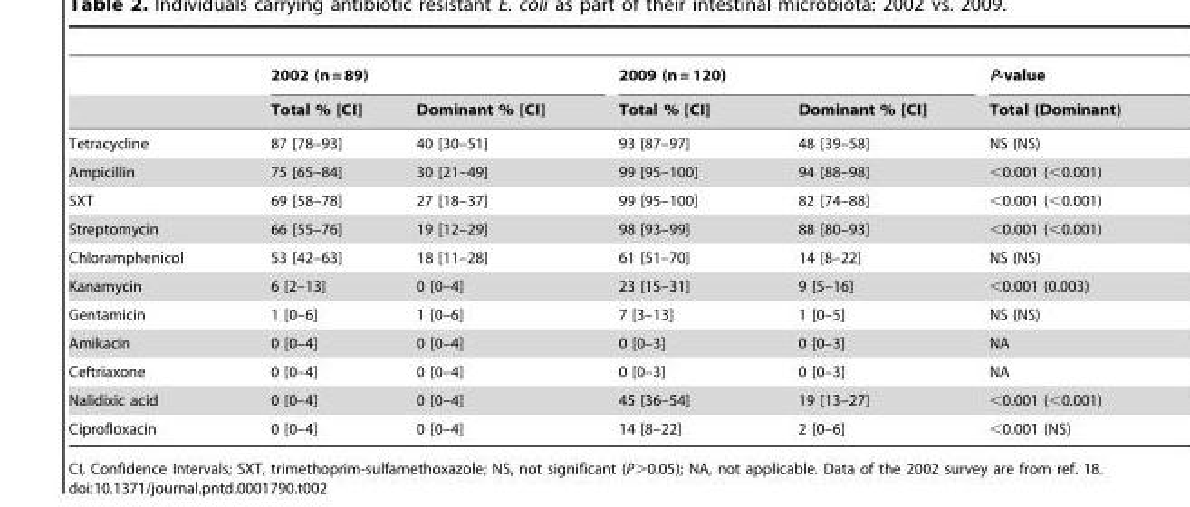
<table><thead><tr><td rowspan="2"></td><td colspan="2">2002 (n = 89)</td><td colspan="2">2009 (n = 120)</td><td rowspan="2">P-value Total (Dominant)</td></tr><tr><td>Total % [CI]</td><td>Dominant % [CI]</td><td>Total % [CI]</td><td>Dominant % [CI]</td></tr></thead><tbody><tr><td>Tetracycline</td><td>87 [78–93]</td><td>40 [30–51]</td><td>93 [87–97]</td><td>48 [39–58]</td><td>NS (NS)</td></tr><tr><td>Ampicillin</td><td>75 [65–84]</td><td>30 [21–49]</td><td>99 [95–100]</td><td>94 [88–98]</td><td>&lt;0.001 (&lt;0.001)</td></tr><tr><td>SXT</td><td>69 [58–78]</td><td>27 [18–37]</td><td>99 [95–100]</td><td>82 [74–88]</td><td>&lt;0.001 (&lt;0.001)</td></tr><tr><td>Streptomycin</td><td>66 [55–76]</td><td>19 [12–29]</td><td>98 [93–99]</td><td>88 [80–93]</td><td>&lt;0.001 (&lt;0.001)</td></tr><tr><td>Chloramphenicol</td><td>53 [42–63]</td><td>18 [11–28]</td><td>61 [51–70]</td><td>14 [8–22]</td><td>NS (NS)</td></tr><tr><td>Kanamycin</td><td>6 [2–13]</td><td>0 [0–4]</td><td>23 [15–31]</td><td>9 [5–16]</td><td>&lt;0.001 (0.003)</td></tr><tr><td>Gentamicin</td><td>1 [0–6]</td><td>1 [0–6]</td><td>7 [3–13]</td><td>1 [0–5]</td><td>NS (NS)</td></tr><tr><td>Amikacin</td><td>0 [0–4]</td><td>0 [0–4]</td><td>0 [0–3]</td><td>0 [0–3]</td><td>NA</td></tr><tr><td>Ceftriaxone</td><td>0 [0–4]</td><td>0 [0–4]</td><td>0 [0–3]</td><td>0 [0–3]</td><td>NA</td></tr><tr><td>Nalidixic acid</td><td>0 [0–4]</td><td>0 [0–4]</td><td>45 [36–54]</td><td>19 [13–27]</td><td>&lt;0.001 (&lt;0.001)</td></tr><tr><td>Ciprofloxacin</td><td>0 [0–4]</td><td>0 [0–4]</td><td>14 [8–22]</td><td>2 [0–6]</td><td>&lt;0.001 (NS)</td></tr></tbody></table>